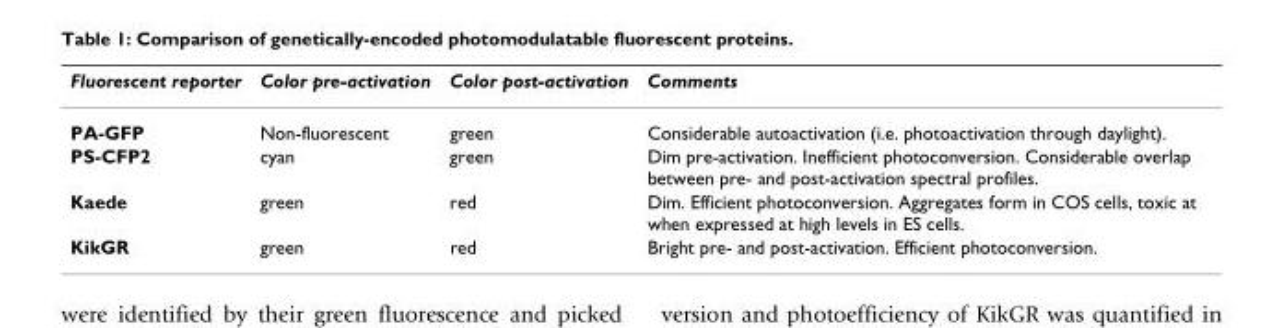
<table><thead><tr><td>Fluorescent reporter</td><td>Color pre-activation</td><td>Color post-activation</td><td>Comments</td></tr></thead><tbody><tr><td>PA-GFP</td><td>Non-fluorescent</td><td>green</td><td>Considerable autoactivation (i.e. photoactivation through daylight).</td></tr><tr><td>PS-CFP2</td><td>cyan</td><td>green</td><td>Dim pre-activation. Inefficient photoconversion. Considerable overlap between pre- and post-activation spectral profiles.</td></tr><tr><td>Kaede</td><td>green</td><td>red</td><td>Dim. Efficient photoconversion. Aggregates form in COS cells, toxic at when expressed at high levels in ES cells.</td></tr><tr><td>KikGR</td><td>green</td><td>red</td><td>Bright pre- and post-activation. Efficient photoconversion.</td></tr></tbody></table>